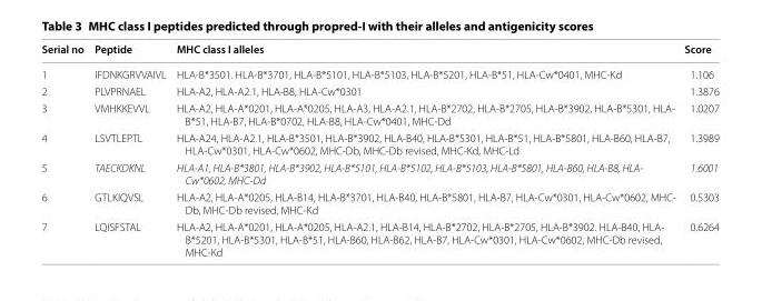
<table><thead><tr><td>Serial no</td><td>Peptide</td><td>MHC class I alleles</td><td>Score</td></tr></thead><tbody><tr><td>1</td><td>IFDNKGRVVAIVL</td><td>HLA-B*3501. HLA-B*3701, HLA-B*5101, HLA-B*5103, HLA-B*5201, HLA-B*51, HLA-Cw*0401, MHC-Kd</td><td>1.106</td></tr><tr><td>2</td><td>PLVPRNAEL</td><td>HLA-A2, HLA-A2.1, HLA-B8, HLA-Cw*0301</td><td>1.3876</td></tr><tr><td>3</td><td>VMHKKEVVL</td><td>HLA-A2, HLA-A*0201, HLA-A*0205, HLA-A3, HLA-A2.1, HLA-B*2702, HLA-B*2705, HLA-B*3902, HLA-B*5301, HLA- B*51, HLA-B7, HLA-B*0702, HLA-B8, HLA-Cw*0401, MHC-Dd</td><td>1.0207</td></tr><tr><td>4</td><td>LSVTLEPTL</td><td>HLA-A24, HLA-A2.1, HLA-B*3501, HLA-B*3902, HLA-B40, HLA-B*5301, HLA-B*51, HLA-B*5801, HLA-B60, HLA-B7, HLA-Cw*0301, HLA-Cw*0602, MHC-Db, MHC-Db revised, MHC-Kd, MHC-Ld</td><td>1.3989</td></tr><tr><td>5</td><td>TAECKDKNL</td><td>HLA-A1, HLA-B*3801, HLA-B*3902, HLA-B*5101, HLA-B*5102, HLA-B*5103, HLA-B*5801, HLA-B60, HLA-B8, HLA- Cw*0602, MHC-Dd</td><td>1.6001</td></tr><tr><td>6</td><td>GTLKIQVSL</td><td>HLA-A2, HLA-A*0205, HLA-B14, HLA-B*3701, HLA-B40, HLA-B*5801, HLA-B7, HLA-Cw*0301, HLA-Cw*0602, MHC- Db, MHC-Db revised, MHC-Kd</td><td>0.5303</td></tr><tr><td>7</td><td>LQISFSTAL</td><td>HLA-A2, HLA-A*0201, HLA-A*0205, HLA-A2.1, HLA-B14, HLA-B*2702, HLA-B*2705, HLA-B*3902. HLA-B40, HLA- B*5201, HLA-B*5301, HLA-B*51, HLA-B60, HLA-B62, HLA-B7, HLA-Cw*0301, HLA-Cw*0602, MHC-Db revised, MHC-Kd</td><td>0.6264</td></tr></tbody></table>